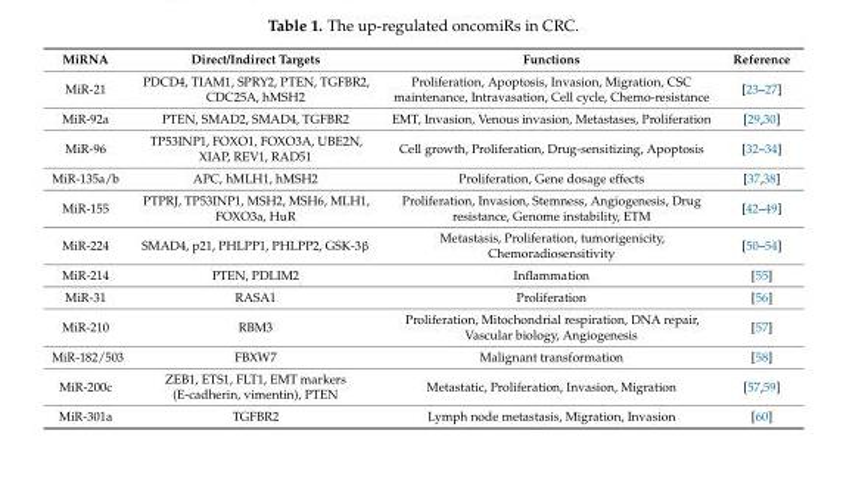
<table><thead><tr><td>MiRNA</td><td>Direct/Indirect Targets</td><td>Functions</td><td>Reference</td></tr></thead><tbody><tr><td>MiR-21</td><td>PDCD4, TIAM1, SPRY2, PTEN, TGFBR2, CDC25A, hMSH2</td><td>Proliferation, Apoptosis, Invasion, Migration, CSC maintenance, Intravasation, Cell cycle, Chemo-resistance</td><td>[23–27]</td></tr><tr><td>MiR-92a</td><td>PTEN, SMAD2, SMAD4, TGFBR2</td><td>EMT, Invasion, Venous invasion, Metastases, Proliferation</td><td>[29,30]</td></tr><tr><td>MiR-96</td><td>TP53INP1, FOXO1, FOXO3A, UBE2N, XIAP, REV1, RAD51</td><td>Cell growth, Proliferation, Drug-sensitizing, Apoptosis</td><td>[32–34]</td></tr><tr><td>MiR-135a/b</td><td>APC, hMLH1, hMSH2</td><td>Proliferation, Gene dosage effects</td><td>[37,38]</td></tr><tr><td>MiR-155</td><td>PTPRJ, TP53INP1, MSH2, MSH6, MLH1, FOXO3a, HuR</td><td>Proliferation, Invasion, Stemness, Angiogenesis, Drug resistance, Genome instability, ETM</td><td>[42–49]</td></tr><tr><td>MiR-224</td><td>SMAD4, p21, PHLPP1, PHLPP2, GSK-3β</td><td>Metastasis, Proliferation, tumorigenicity, Chemoradiosensitivity</td><td>[50–54]</td></tr><tr><td>MiR-214</td><td>PTEN, PDLIM2</td><td>Inflammation</td><td>[55]</td></tr><tr><td>MiR-31</td><td>RASA1</td><td>Proliferation</td><td>[56]</td></tr><tr><td>MiR-210</td><td>RBM3</td><td>Proliferation, Mitochondrial respiration, DNA repair, Vascular biology, Angiogenesis</td><td>[57]</td></tr><tr><td>MiR-182/503</td><td>FBXW7</td><td>Malignant transformation</td><td>[58]</td></tr><tr><td>MiR-200c</td><td>ZEB1, ETS1, FLT1, EMT markers (E-cadherin, vimentin), PTEN</td><td>Metastatic, Proliferation, Invasion, Migration</td><td>[57,59]</td></tr><tr><td>MiR-301a</td><td>TGFBR2</td><td>Lymph node metastasis, Migration, Invasion</td><td>[60]</td></tr></tbody></table>